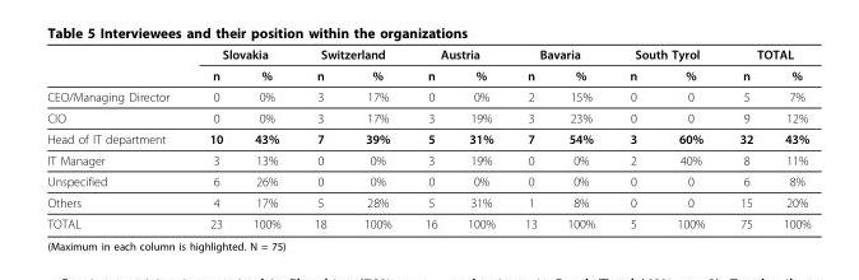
<table><thead><tr><td rowspan="2"></td><td colspan="2">Slovakia</td><td colspan="2">Switzerland</td><td colspan="2">Austria</td><td colspan="2">Bavaria</td><td colspan="2">South Tyrol</td><td colspan="2">TOTAL</td></tr><tr><td>n</td><td>%</td><td>n</td><td>%</td><td>n</td><td>%</td><td>n</td><td>%</td><td>n</td><td>%</td><td>n</td><td>%</td></tr></thead><tbody><tr><td>CEO/Managing Director</td><td>0</td><td>0%</td><td>3</td><td>17%</td><td>0</td><td>0%</td><td>2</td><td>15%</td><td>0</td><td>0</td><td>5</td><td>7%</td></tr><tr><td>CIO</td><td>0</td><td>0%</td><td>3</td><td>17%</td><td>3</td><td>19%</td><td>3</td><td>23%</td><td>0</td><td>0</td><td>9</td><td>12%</td></tr><tr><td>Head of IT department</td><td>10</td><td>43%</td><td>7</td><td>39%</td><td>5</td><td>31%</td><td>7</td><td>54%</td><td>3</td><td>60%</td><td>32</td><td>43%</td></tr><tr><td>IT Manager</td><td>3</td><td>13%</td><td>0</td><td>0%</td><td>3</td><td>19%</td><td>0</td><td>0%</td><td>2</td><td>40%</td><td>8</td><td>11%</td></tr><tr><td>Unspecified</td><td>6</td><td>26%</td><td>0</td><td>0%</td><td>0</td><td>0%</td><td>0</td><td>0%</td><td>0</td><td>0</td><td>6</td><td>8%</td></tr><tr><td>Others</td><td>4</td><td>17%</td><td>5</td><td>28%</td><td>5</td><td>31%</td><td>1</td><td>8%</td><td>0</td><td>0</td><td>15</td><td>20%</td></tr><tr><td>TOTAL</td><td>23</td><td>100%</td><td>18</td><td>100%</td><td>16</td><td>100%</td><td>13</td><td>100%</td><td>5</td><td>100%</td><td>75</td><td>100%</td></tr></tbody></table>